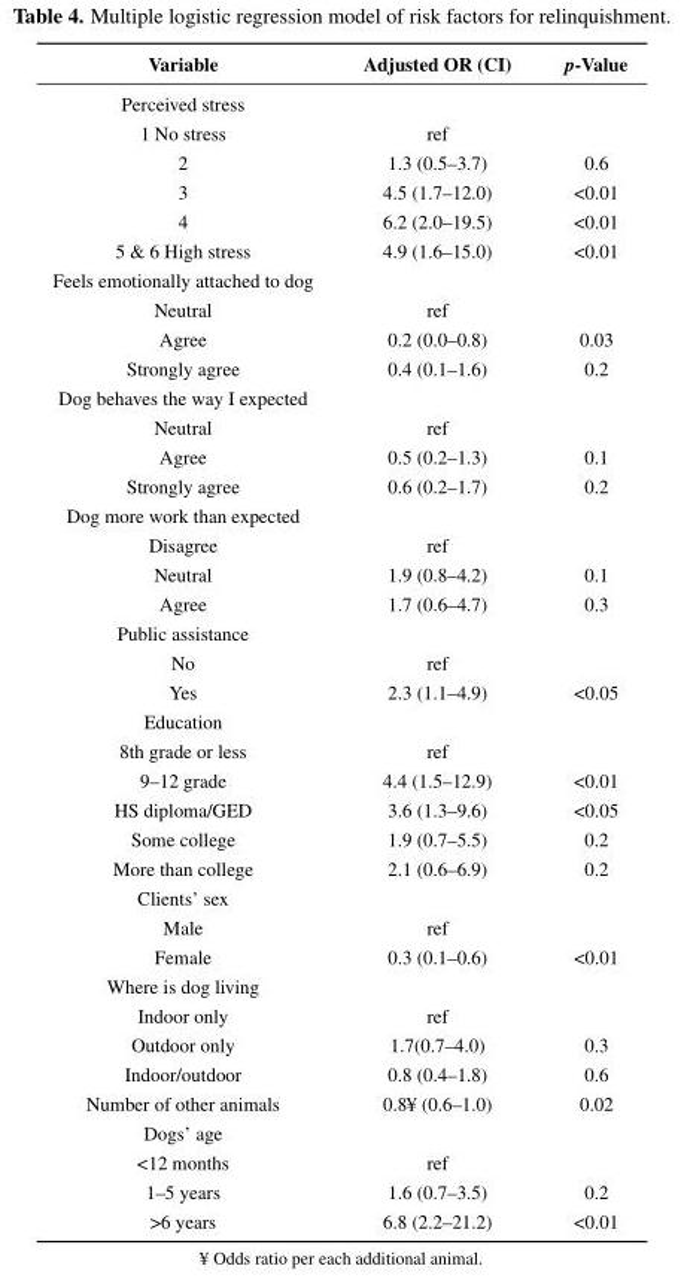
<table><thead><tr><td>Variable</td><td>Adjusted OR (CI)</td><td>p-Value</td></tr></thead><tbody><tr><td colspan="3">Perceived stress</td></tr><tr><td>1 No stress</td><td>ref</td><td></td></tr><tr><td>2</td><td>1.3 (0.5–3.7)</td><td>0.6</td></tr><tr><td>3</td><td>4.5 (1.7–12.0)</td><td>&lt;0.01</td></tr><tr><td>4</td><td>6.2 (2.0–19.5)</td><td>&lt;0.01</td></tr><tr><td>5 &amp; 6 High stress</td><td>4.9 (1.6–15.0)</td><td>&lt;0.01</td></tr><tr><td colspan="3">Feels emotionally attached to dog</td></tr><tr><td>Neutral</td><td>ref</td><td></td></tr><tr><td>Agree</td><td>0.2 (0.0–0.8)</td><td>0.03</td></tr><tr><td>Strongly agree</td><td>0.4 (0.1–1.6)</td><td>0.2</td></tr><tr><td colspan="3">Dog behaves the way I expected</td></tr><tr><td>Neutral</td><td>ref</td><td></td></tr><tr><td>Agree</td><td>0.5 (0.2–1.3)</td><td>0.1</td></tr><tr><td>Strongly agree</td><td>0.6 (0.2–1.7)</td><td>0.2</td></tr><tr><td colspan="3">Dog more work than expected</td></tr><tr><td>Disagree</td><td>ref</td><td></td></tr><tr><td>Neutral</td><td>1.9 (0.8–4.2)</td><td>0.1</td></tr><tr><td>Agree</td><td>1.7 (0.6–4.7)</td><td>0.3</td></tr><tr><td colspan="3">Public assistance</td></tr><tr><td>No</td><td>ref</td><td></td></tr><tr><td>Yes</td><td>2.3 (1.1–4.9)</td><td>&lt;0.05</td></tr><tr><td colspan="3">Education</td></tr><tr><td>8th grade or less</td><td>ref</td><td></td></tr><tr><td>9–12 grade</td><td>4.4 (1.5–12.9)</td><td>&lt;0.01</td></tr><tr><td>HS diploma/GED</td><td>3.6 (1.3–9.6)</td><td>&lt;0.05</td></tr><tr><td>Some college</td><td>1.9 (0.7–5.5)</td><td>0.2</td></tr><tr><td>More than college</td><td>2.1 (0.6–6.9)</td><td>0.2</td></tr><tr><td colspan="3">Clients’ sex</td></tr><tr><td>Male</td><td>ref</td><td></td></tr><tr><td>Female</td><td>0.3 (0.1–0.6)</td><td>&lt;0.01</td></tr><tr><td colspan="3">Where is dog living</td></tr><tr><td>Indoor only</td><td>ref</td><td></td></tr><tr><td>Outdoor only</td><td>1.7(0.7–4.0)</td><td>0.3</td></tr><tr><td>Indoor/outdoor</td><td>0.8 (0.4–1.8)</td><td>0.6</td></tr><tr><td>Number of other animals</td><td>0.8¥ (0.6–1.0)</td><td>0.02</td></tr><tr><td colspan="3">Dogs’ age</td></tr><tr><td>&lt;12 months</td><td>ref</td><td></td></tr><tr><td>1–5 years</td><td>1.6 (0.7–3.5)</td><td>0.2</td></tr><tr><td>&gt;6 years</td><td>6.8 (2.2–21.2)</td><td>&lt;0.01</td></tr></tbody></table>